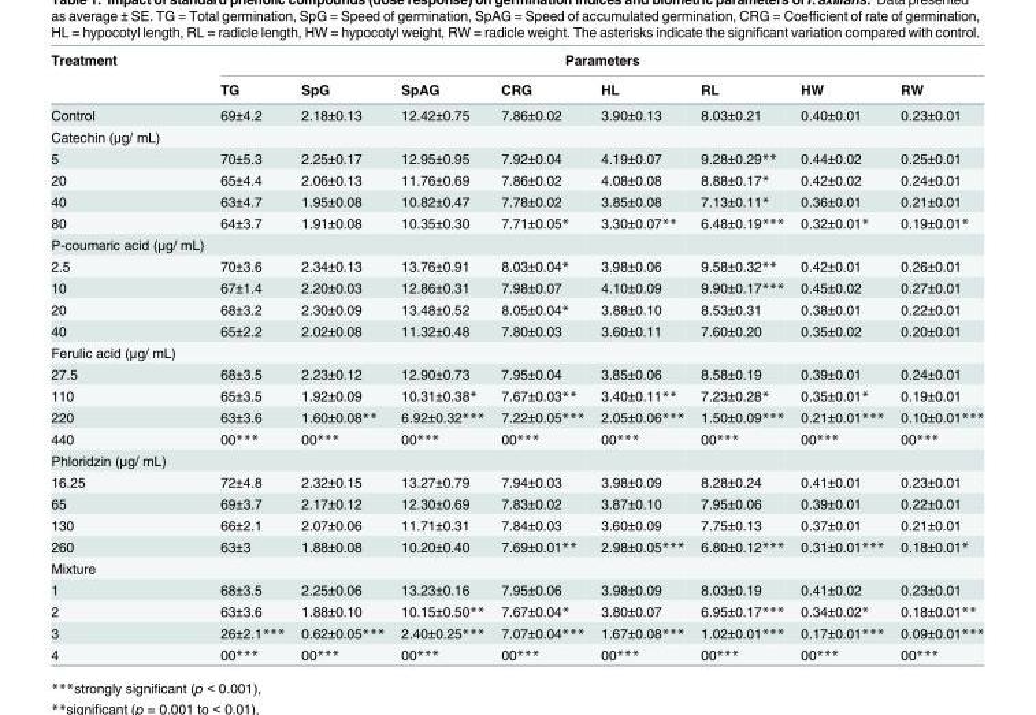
<table><thead><tr><td rowspan="2">Treatment</td><td colspan="8">Parameters</td></tr><tr><td>TG</td><td>SpG</td><td>SpAG</td><td>CRG</td><td>HL</td><td>RL</td><td>HW</td><td>RW</td></tr></thead><tbody><tr><td>Control</td><td>69±4.2</td><td>2.18±0.13</td><td>12.42±0.75</td><td>7.86±0.02</td><td>3.90±0.13</td><td>8.03±0.21</td><td>0.40±0.01</td><td>0.23±0.01</td></tr><tr><td colspan="9">Catechin (μg/ mL)</td></tr><tr><td>5</td><td>70±5.3</td><td>2.25±0.17</td><td>12.95±0.95</td><td>7.92±0.04</td><td>4.19±0.07</td><td>9.28±0.29**</td><td>0.44±0.02</td><td>0.25±0.01</td></tr><tr><td>20</td><td>65±4.4</td><td>2.06±0.13</td><td>11.76±0.69</td><td>7.86±0.02</td><td>4.08±0.08</td><td>8.88±0.17*</td><td>0.42±0.02</td><td>0.24±0.01</td></tr><tr><td>40</td><td>63±4.7</td><td>1.95±0.08</td><td>10.82±0.47</td><td>7.78±0.02</td><td>3.85±0.08</td><td>7.13±0.11*</td><td>0.36±0.01</td><td>0.21±0.01</td></tr><tr><td>80</td><td>64±3.7</td><td>1.91±0.08</td><td>10.35±0.30</td><td>7.71±0.05*</td><td>3.30±0.07**</td><td>6.48±0.19***</td><td>0.32±0.01*</td><td>0.19±0.01*</td></tr><tr><td colspan="9">P-coumaric acid (μg/ mL)</td></tr><tr><td>2.5</td><td>70±3.6</td><td>2.34±0.13</td><td>13.76±0.91</td><td>8.03±0.04*</td><td>3.98±0.06</td><td>9.58±0.32**</td><td>0.42±0.01</td><td>0.26±0.01</td></tr><tr><td>10</td><td>67±1.4</td><td>2.20±0.03</td><td>12.86±0.31</td><td>7.98±0.07</td><td>4.10±0.09</td><td>9.90±0.17***</td><td>0.45±0.02</td><td>0.27±0.01</td></tr><tr><td>20</td><td>68±3.2</td><td>2.30±0.09</td><td>13.48±0.52</td><td>8.05±0.04*</td><td>3.88±0.10</td><td>8.53±0.31</td><td>0.38±0.01</td><td>0.22±0.01</td></tr><tr><td>40</td><td>65±2.2</td><td>2.02±0.08</td><td>11.32±0.48</td><td>7.80±0.03</td><td>3.60±0.11</td><td>7.60±0.20</td><td>0.35±0.02</td><td>0.20±0.01</td></tr><tr><td colspan="9">Ferulic acid (μg/ mL)</td></tr><tr><td>27.5</td><td>68±3.5</td><td>2.23±0.12</td><td>12.90±0.73</td><td>7.95±0.04</td><td>3.85±0.06</td><td>8.58±0.19</td><td>0.39±0.01</td><td>0.24±0.01</td></tr><tr><td>110</td><td>65±3.5</td><td>1.92±0.09</td><td>10.31±0.38*</td><td>7.67±0.03**</td><td>3.40±0.11**</td><td>7.23±0.28*</td><td>0.35±0.01*</td><td>0.19±0.01</td></tr><tr><td>220</td><td>63±3.6</td><td>1.60±0.08**</td><td>6.92±0.32***</td><td>7.22±0.05***</td><td>2.05±0.06***</td><td>1.50±0.09***</td><td>0.21±0.01***</td><td>0.10±0.01***</td></tr><tr><td>440</td><td>00***</td><td>00***</td><td>00***</td><td>00***</td><td>00***</td><td>00***</td><td>00***</td><td>00***</td></tr><tr><td colspan="9">Phloridzin (μg/ mL)</td></tr><tr><td>16.25</td><td>72±4.8</td><td>2.32±0.15</td><td>13.27±0.79</td><td>7.94±0.03</td><td>3.98±0.09</td><td>8.28±0.24</td><td>0.41±0.01</td><td>0.23±0.01</td></tr><tr><td>65</td><td>69±3.7</td><td>2.17±0.12</td><td>12.30±0.69</td><td>7.83±0.02</td><td>3.87±0.10</td><td>7.95±0.06</td><td>0.39±0.01</td><td>0.22±0.01</td></tr><tr><td>130</td><td>66±2.1</td><td>2.07±0.06</td><td>11.71±0.31</td><td>7.84±0.03</td><td>3.60±0.09</td><td>7.75±0.13</td><td>0.37±0.01</td><td>0.21±0.01</td></tr><tr><td>260</td><td>63±3</td><td>1.88±0.08</td><td>10.20±0.40</td><td>7.69±0.01**</td><td>2.98±0.05***</td><td>6.80±0.12***</td><td>0.31±0.01***</td><td>0.18±0.01*</td></tr><tr><td colspan="9">Mixture</td></tr><tr><td>1</td><td>68±3.5</td><td>2.25±0.06</td><td>13.23±0.16</td><td>7.95±0.06</td><td>3.98±0.09</td><td>8.03±0.19</td><td>0.41±0.02</td><td>0.23±0.01</td></tr><tr><td>2</td><td>63±3.6</td><td>1.88±0.10</td><td>10.15±0.50**</td><td>7.67±0.04*</td><td>3.80±0.07</td><td>6.95±0.17***</td><td>0.34±0.02*</td><td>0.18±0.01**</td></tr><tr><td>3</td><td>26±2.1***</td><td>0.62±0.05***</td><td>2.40±0.25***</td><td>7.07±0.04***</td><td>1.67±0.08***</td><td>1.02±0.01***</td><td>0.17±0.01***</td><td>0.09±0.01***</td></tr><tr><td>4</td><td>00***</td><td>00***</td><td>00***</td><td>00***</td><td>00***</td><td>00***</td><td>00***</td><td>00***</td></tr></tbody></table>